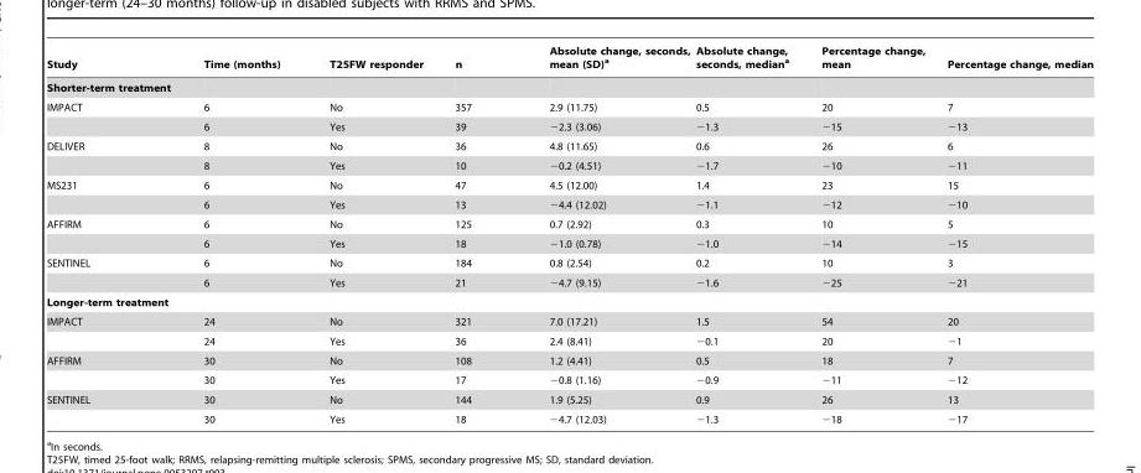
<table><thead><tr><td>Study</td><td>Time (months)</td><td>T25FW responder</td><td>n</td><td>Absolute change, seconds, mean (SD)<sup>a</sup></td><td>Absolute change, seconds, median<sup>a</sup></td><td>Percentage change, mean</td><td>Percentage change, median</td></tr></thead><tbody><tr><td colspan="8">Shorter-term treatment</td></tr><tr><td rowspan="2">IMPACT</td><td>6</td><td>No</td><td>357</td><td>2.9 (11.75)</td><td>0.5</td><td>20</td><td>7</td></tr><tr><td>6</td><td>Yes</td><td>39</td><td>−2.3 (3.06)</td><td>−1.3</td><td>−15</td><td>−13</td></tr><tr><td rowspan="2">DELIVER</td><td>8</td><td>No</td><td>36</td><td>4.8 (11.65)</td><td>0.6</td><td>26</td><td>6</td></tr><tr><td>8</td><td>Yes</td><td>10</td><td>−0.2 (4.51)</td><td>−1.7</td><td>−10</td><td>−11</td></tr><tr><td rowspan="2">MS231</td><td>6</td><td>No</td><td>47</td><td>4.5 (12.00)</td><td>1.4</td><td>23</td><td>15</td></tr><tr><td>6</td><td>Yes</td><td>13</td><td>−4.4 (12.02)</td><td>−1.1</td><td>−12</td><td>−10</td></tr><tr><td rowspan="2">AFFIRM</td><td>6</td><td>No</td><td>125</td><td>0.7 (2.92)</td><td>0.3</td><td>10</td><td>5</td></tr><tr><td>6</td><td>Yes</td><td>18</td><td>−1.0 (0.78)</td><td>−1.0</td><td>−14</td><td>−15</td></tr><tr><td rowspan="2">SENTINEL</td><td>6</td><td>No</td><td>184</td><td>0.8 (2.54)</td><td>0.2</td><td>10</td><td>3</td></tr><tr><td>6</td><td>Yes</td><td>21</td><td>−4.7 (9.15)</td><td>−1.6</td><td>−25</td><td>−21</td></tr><tr><td colspan="8">Longer-term treatment</td></tr><tr><td rowspan="2">IMPACT</td><td>24</td><td>No</td><td>321</td><td>7.0 (17.21)</td><td>1.5</td><td>54</td><td>20</td></tr><tr><td>24</td><td>Yes</td><td>36</td><td>2.4 (8.41)</td><td>−0.1</td><td>20</td><td>−1</td></tr><tr><td rowspan="2">AFFIRM</td><td>30</td><td>No</td><td>108</td><td>1.2 (4.41)</td><td>0.5</td><td>18</td><td>7</td></tr><tr><td>30</td><td>Yes</td><td>17</td><td>−0.8 (1.16)</td><td>−0.9</td><td>−11</td><td>−12</td></tr><tr><td rowspan="2">SENTINEL</td><td>30</td><td>No</td><td>144</td><td>1.9 (5.25)</td><td>0.9</td><td>26</td><td>13</td></tr><tr><td>30</td><td>Yes</td><td>18</td><td>−4.7 (12.03)</td><td>−1.3</td><td>−18</td><td>−17</td></tr></tbody></table>